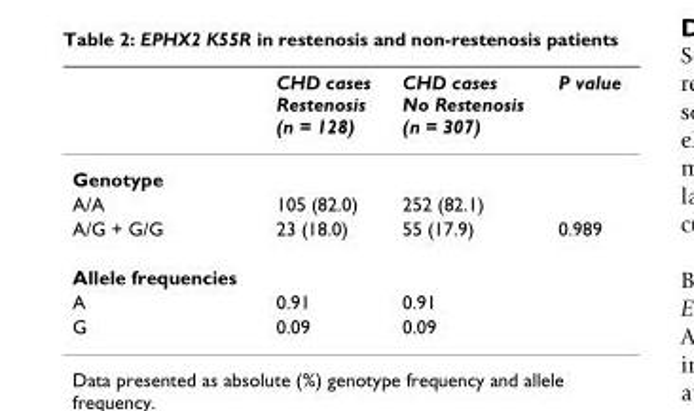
<table><thead><tr><td></td><td>CHD cases Restenosis (n = 128)</td><td>CHD cases No Restenosis (n = 307)</td><td>P value</td></tr></thead><tbody><tr><td colspan="4">Genotype</td></tr><tr><td>A/A</td><td>105 (82.0)</td><td>252 (82.1)</td><td></td></tr><tr><td>A/G + G/G</td><td>23 (18.0)</td><td>55 (17.9)</td><td>0.989</td></tr><tr><td colspan="4">Allele frequencies</td></tr><tr><td>A</td><td>0.91</td><td>0.91</td><td></td></tr><tr><td>G</td><td>0.09</td><td>0.09</td><td></td></tr></tbody></table>